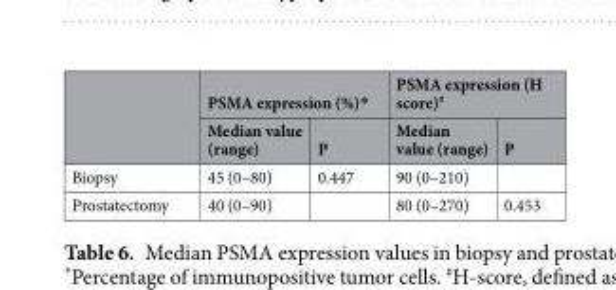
<table><thead><tr><td rowspan="2"></td><td colspan="2">PSMA expression (%)*</td><td colspan="2">PSMA expression (H score)<sup>#</sup></td></tr><tr><td>Median value (range)</td><td>P</td><td>Median value (range)</td><td>P</td></tr></thead><tbody><tr><td>Biopsy</td><td>45 (0–80)</td><td>0.447</td><td>90 (0–210)</td><td></td></tr><tr><td>Prostatectomy</td><td>40 (0–90)</td><td></td><td>80 (0–270)</td><td>0.453</td></tr></tbody></table>